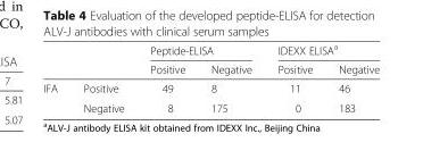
<table><thead><tr><td rowspan="2"></td><td rowspan="2"></td><td colspan="2">Peptide-ELISA</td><td colspan="2">IDEXX ELISA<sup>a</sup></td></tr><tr><td>Positive</td><td>Negative</td><td>Positive</td><td>Negative</td></tr></thead><tbody><tr><td rowspan="2">IFA</td><td>Positive</td><td>49</td><td>8</td><td>11</td><td>46</td></tr><tr><td>Negative</td><td>8</td><td>175</td><td>0</td><td>183</td></tr></tbody></table>